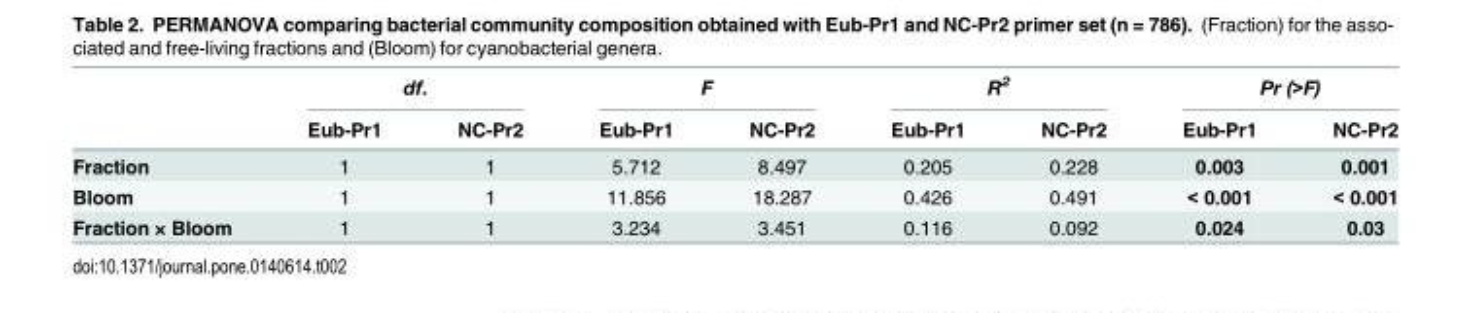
<table><thead><tr><td rowspan="2"></td><td colspan="2">df.</td><td colspan="2">F</td><td colspan="2">R<sup>2</sup></td><td colspan="2">Pr (&gt;F)</td></tr><tr><td>Eub-Pr1</td><td>NC-Pr2</td><td>Eub-Pr1</td><td>NC-Pr2</td><td>Eub-Pr1</td><td>NC-Pr2</td><td>Eub-Pr1</td><td>NC-Pr2</td></tr></thead><tbody><tr><td>Fraction</td><td>1</td><td>1</td><td>5.712</td><td>8.497</td><td>0.205</td><td>0.228</td><td>0.003</td><td>0.001</td></tr><tr><td>Bloom</td><td>1</td><td>1</td><td>11.856</td><td>18.287</td><td>0.426</td><td>0.491</td><td>&lt; 0.001</td><td>&lt; 0.001</td></tr><tr><td>Fraction × Bloom</td><td>1</td><td>1</td><td>3.234</td><td>3.451</td><td>0.116</td><td>0.092</td><td>0.024</td><td>0.03</td></tr></tbody></table>